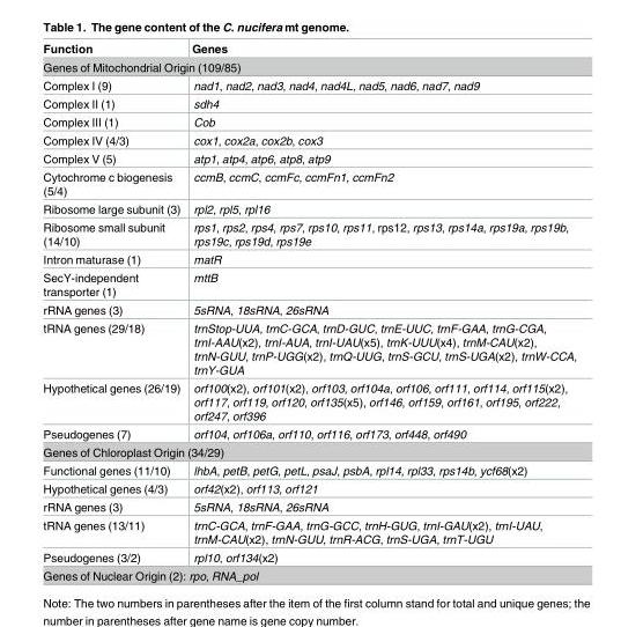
<table><thead><tr><td>Function</td><td>Genes</td></tr></thead><tbody><tr><td colspan="2">Genes of Mitochondrial Origin (109/85)</td></tr><tr><td>Complex I (9)</td><td>nad1, nad2, nad3, nad4, nad4L, nad5, nad6, nad7, nad9</td></tr><tr><td>Complex II (1)</td><td>sdh4</td></tr><tr><td>Complex III (1)</td><td>Cob</td></tr><tr><td>Complex IV (4/3)</td><td>cox1, cox2a, cox2b, cox3</td></tr><tr><td>Complex V (5)</td><td>atp1, atp4, atp6, atp8, atp9</td></tr><tr><td>Cytochrome c biogenesis (5/4)</td><td>ccmB, ccmC, ccmFc, ccmFn1, ccmFn2</td></tr><tr><td>Ribosome large subunit (3)</td><td>rpl2, rpl5, rpl16</td></tr><tr><td>Ribosome small subunit (14/10)</td><td>rps1, rps2, rps4, rps7, rps10, rps11, rps12, rps13, rps14a, rps19a, rps19b, rps19c, rps19d, rps19e</td></tr><tr><td>Intron maturase (1)</td><td>matR</td></tr><tr><td>SecY-independent transporter (1)</td><td>mttB</td></tr><tr><td>rRNA genes (3)</td><td>5sRNA, 18sRNA, 26sRNA</td></tr><tr><td>tRNA genes (29/18)</td><td>trnStop-UUA, trnC-GCA, trnD-GUC, trnE-UUC, trnF-GAA, trnG-CGA, trnI-AAU(x2), trnI-AUA, trnI-UAU(x5), trnK-UUU(x4), trnM-CAU(x2), trnN-GUU, trnP-UGG(x2), trnQ-UUG, trnS-GCU, trnS-UGA(x2), trnW-CCA, trnY-GUA</td></tr><tr><td>Hypothetical genes (26/19)</td><td>orf100(x2), orf101(x2), orf103, orf104a, orf106, orf111, orf114, orf115(x2), orf117, orf119, orf120, orf135(x5), orf146, orf159, orf161, orf195, orf222, orf247, orf396</td></tr><tr><td>Pseudogenes (7)</td><td>orf104, orf106a, orf110, orf116, orf173, orf448, orf490</td></tr><tr><td colspan="2">Genes of Chloroplast Origin (34/29)</td></tr><tr><td>Functional genes (11/10)</td><td>lhbA, petB, petG, petL, psaJ, psbA, rpl14, rpl33, rps14b, ycf68(x2)</td></tr><tr><td>Hypothetical genes (4/3)</td><td>orf42(x2), orf113, orf121</td></tr><tr><td>rRNA genes (3)</td><td>5sRNA, 18sRNA, 26sRNA</td></tr><tr><td>tRNA genes (13/11)</td><td>trnC-GCA, trnF-GAA, trnG-GCC, trnH-GUG, trnI-GAU(x2), trnI-UAU, trnM-CAU(x2), trnN-GUU, trnR-ACG, trnS-UGA, trnT-UGU</td></tr><tr><td>Pseudogenes (3/2)</td><td>rpl10, orf134(x2)</td></tr><tr><td colspan="2">Genes of Nuclear Origin (2): rpo, RNA_pol</td></tr></tbody></table>